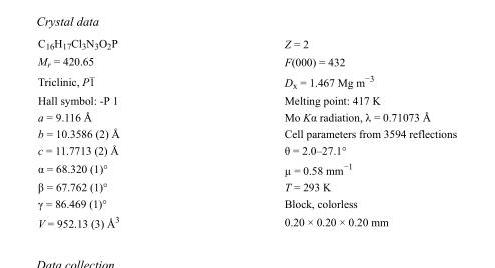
<table><tbody><tr><td>C<sub>16</sub>H<sub>17</sub>Cl<sub>3</sub>N<sub>3</sub>O<sub>2</sub>P</td><td>Z = 2</td></tr><tr><td>M<sub>r</sub> = 420.65</td><td>F(000) = 432</td></tr><tr><td>Triclinic, P1</td><td>D<sub>x</sub> = 1.467 Mg m<sup>−3</sup></td></tr><tr><td>Hall symbol: -P 1</td><td>Melting point: 417 K</td></tr><tr><td>a = 9.116 Å</td><td>Mo Kα radiation, λ = 0.71073 Å</td></tr><tr><td>b = 10.3586 (2) Å</td><td>Cell parameters from 3594 reflections</td></tr><tr><td>c = 11.7713 (2) Å</td><td>θ = 2.0–27.1°</td></tr><tr><td>α = 68.320 (1)°</td><td>µ = 0.58 mm<sup>−1</sup></td></tr><tr><td>β = 67.762 (1)°</td><td>T = 293 K</td></tr><tr><td>γ = 86.469 (1)°</td><td>Block, colorless</td></tr><tr><td>V = 952.13 (3) Å<sup>3</sup></td><td>0.20 × 0.20 × 0.20 mm</td></tr></tbody></table>